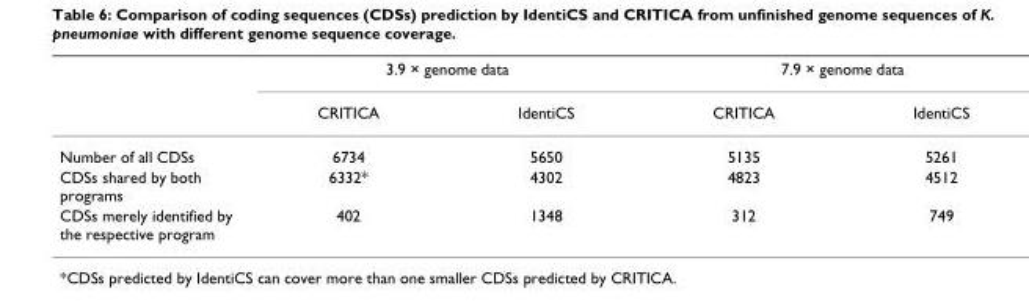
<table><thead><tr><td rowspan="2"></td><td colspan="2">3.9 × genome data</td><td colspan="2">7.9 × genome data</td></tr><tr><td>CRITICA</td><td>IdentiCS</td><td>CRITICA</td><td>IdentiCS</td></tr></thead><tbody><tr><td>Number of all CDSs</td><td>6734</td><td>5650</td><td>5135</td><td>5261</td></tr><tr><td>CDSs shared by both programs</td><td>6332*</td><td>4302</td><td>4823</td><td>4512</td></tr><tr><td>CDSs merely identified by the respective program</td><td>402</td><td>1348</td><td>312</td><td>749</td></tr></tbody></table>